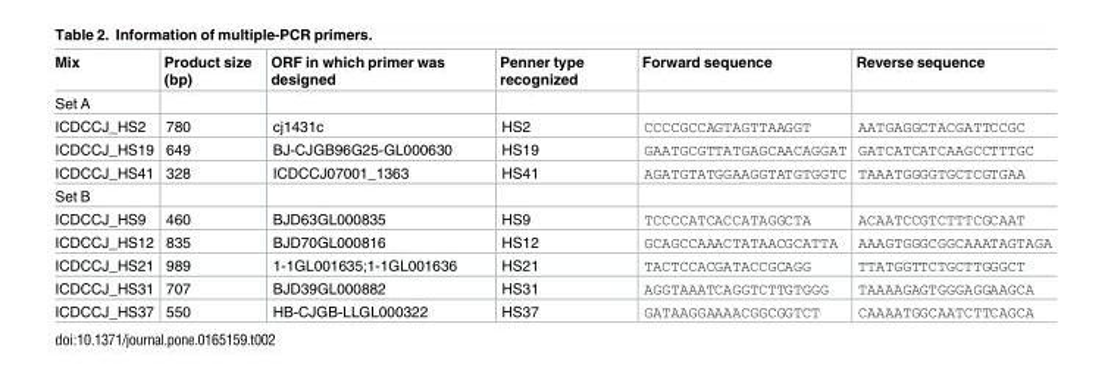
<table><thead><tr><td>Mix</td><td>Product size (bp)</td><td>ORF in which primer was designed</td><td>Penner type recognized</td><td>Forward sequence</td><td>Reverse sequence</td></tr></thead><tbody><tr><td colspan="6">Set A</td></tr><tr><td>ICDCCJ_HS2</td><td>780</td><td>cj1431c</td><td>HS2</td><td>CCCCGCCAGTAGTTAAGGT</td><td>AATGAGGCTACGATTCCGC</td></tr><tr><td>ICDCCJ_HS19</td><td>649</td><td>BJ-CJGB96G25-GL000630</td><td>HS19</td><td>GAATGCGTTATGAGCAACAGGAT</td><td>GATCATCATCAAGCCTTTGC</td></tr><tr><td>ICDCCJ_HS41</td><td>328</td><td>ICDCCJ07001_1363</td><td>HS41</td><td>AGATGTATGGAAGGTATGTGGTC</td><td>TAAATGGGGTGCTCGTGAA</td></tr><tr><td colspan="6">Set B</td></tr><tr><td>ICDCCJ_HS9</td><td>460</td><td>BJD63GL000835</td><td>HS9</td><td>TCCCCATCACCATAGGCTA</td><td>ACAATCCGTCTTTCGCAAT</td></tr><tr><td>ICDCCJ_HS12</td><td>835</td><td>BJD70GL000816</td><td>HS12</td><td>GCAGCCAAACTATAACGCATTA</td><td>AAAGTGGGCGGCAAATAGTAGA</td></tr><tr><td>ICDCCJ_HS21</td><td>989</td><td>1-1GL001635;1-1GL001636</td><td>HS21</td><td>TACTCCACGATACCGCAGG</td><td>TTATGGTTCTGCTTGGGCT</td></tr><tr><td>ICDCCJ_HS31</td><td>707</td><td>BJD39GL000882</td><td>HS31</td><td>AGGTAAATCAGGTCTTGTGGG</td><td>TAAAAGAGTGGGAGGAAGCA</td></tr><tr><td>ICDCCJ_HS37</td><td>550</td><td>HB-CJGB-LLGL000322</td><td>HS37</td><td>GATAAGGAAAACGGCGGTCT</td><td>CAAAATGGCAATCTTCAGCA</td></tr></tbody></table>